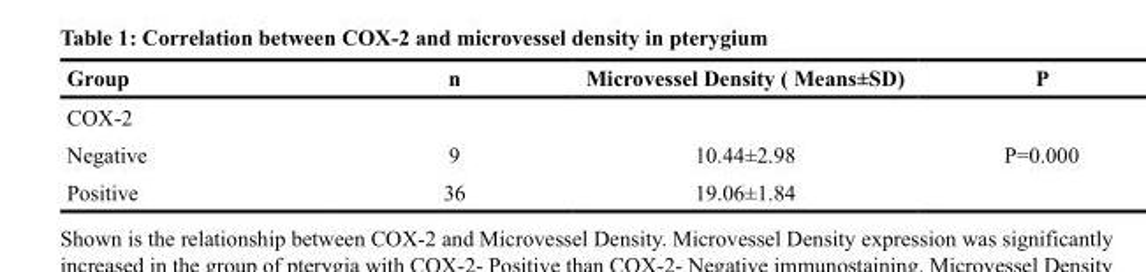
<table><thead><tr><td>Group</td><td>n</td><td>Microvessel Density ( Means±SD)</td><td>P</td></tr></thead><tbody><tr><td colspan="4">COX-2</td></tr><tr><td>Negative</td><td>9</td><td>10.44±2.98</td><td>P=0.000</td></tr><tr><td>Positive</td><td>36</td><td>19.06±1.84</td><td></td></tr></tbody></table>